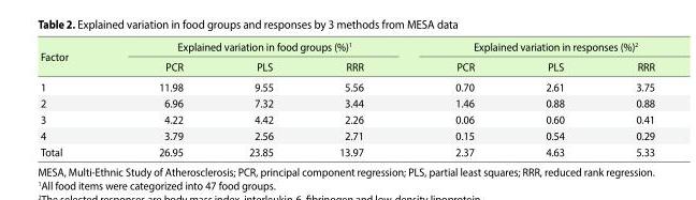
<table><thead><tr><td rowspan="2">Factor</td><td colspan="3">Explained variation in food groups (%)<sup>1</sup></td><td colspan="3">Explained variation in responses (%)<sup>2</sup></td></tr><tr><td>PCR</td><td>PLS</td><td>RRR</td><td>PCR</td><td>PLS</td><td>RRR</td></tr></thead><tbody><tr><td>1</td><td>11.98</td><td>9.55</td><td>5.56</td><td>0.70</td><td>2.61</td><td>3.75</td></tr><tr><td>2</td><td>6.96</td><td>7.32</td><td>3.44</td><td>1.46</td><td>0.88</td><td>0.88</td></tr><tr><td>3</td><td>4.22</td><td>4.42</td><td>2.26</td><td>0.06</td><td>0.60</td><td>0.41</td></tr><tr><td>4</td><td>3.79</td><td>2.56</td><td>2.71</td><td>0.15</td><td>0.54</td><td>0.29</td></tr><tr><td>Total</td><td>26.95</td><td>23.85</td><td>13.97</td><td>2.37</td><td>4.63</td><td>5.33</td></tr></tbody></table>